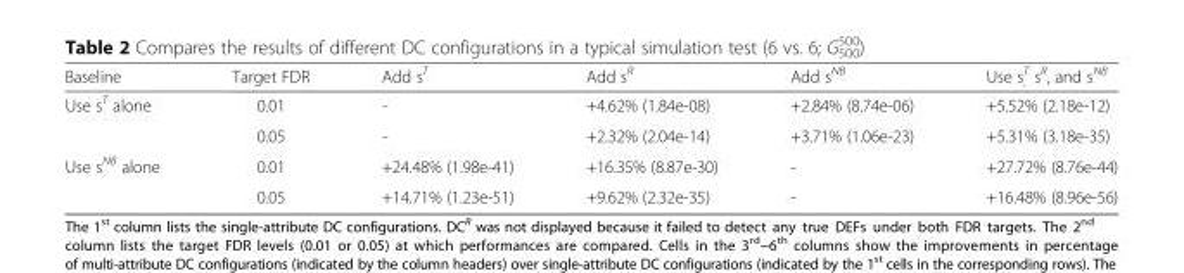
<table><thead><tr><td>Baseline</td><td>Target FDR</td><td>Add s<sup>T</sup></td><td>Add s<sup>R</sup></td><td>Add s<sup>NB</sup></td><td>Use s<sup>T</sup> <sub>,</sub> s<sup>R</sup>, and s<sup>NB</sup></td></tr></thead><tbody><tr><td rowspan="2">Use s<sup>T</sup> alone</td><td>0.01</td><td>-</td><td>+4.62% (1.84e-08)</td><td>+2.84% (8.74e-06)</td><td>+5.52% (2.18e-12)</td></tr><tr><td>0.05</td><td>-</td><td>+2.32% (2.04e-14)</td><td>+3.71% (1.06e-23)</td><td>+5.31% (3.18e-35)</td></tr><tr><td rowspan="2">Use s<sup>NB</sup> alone</td><td>0.01</td><td>+24.48% (1.98e-41)</td><td>+16.35% (8.87e-30)</td><td>-</td><td>+27.72% (8.76e-44)</td></tr><tr><td>0.05</td><td>+14.71% (1.23e-51)</td><td>+9.62% (2.32e-35)</td><td>-</td><td>+16.48% (8.96e-56)</td></tr></tbody></table>